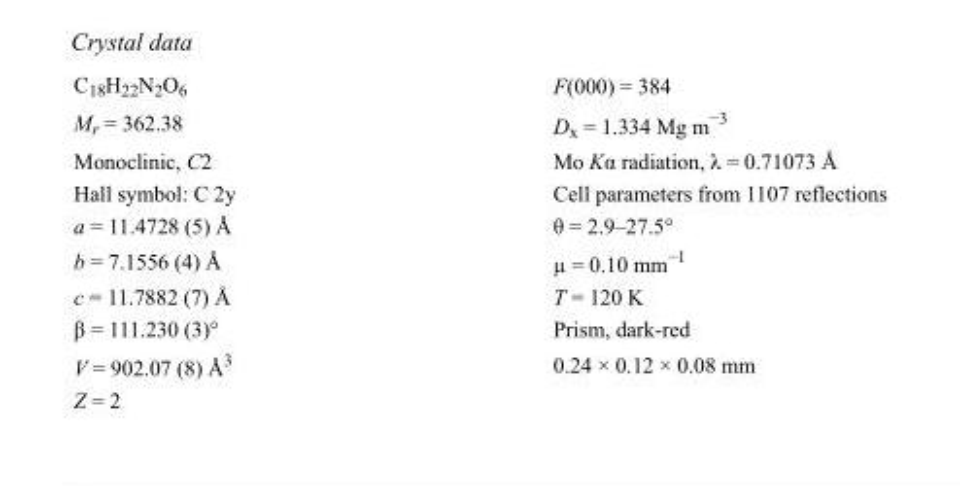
<table><tbody><tr><td>C<sub>18</sub>H<sub>22</sub>N<sub>2</sub>O<sub>6</sub></td><td>F(000) = 384</td></tr><tr><td>M<sub>r</sub> = 362.38</td><td>D<sub>x</sub> = 1.334 Mg m<sup>−3</sup></td></tr><tr><td>Monoclinic, C2</td><td>Mo Kα radiation, λ = 0.71073 Å</td></tr><tr><td>Hall symbol: C 2y</td><td>Cell parameters from 1107 reflections</td></tr><tr><td>a = 11.4728 (5) Å</td><td>θ = 2.9–27.5°</td></tr><tr><td>b = 7.1556 (4) Å</td><td>µ = 0.10 mm<sup>−1</sup></td></tr><tr><td>c = 11.7882 (7) Å</td><td>T = 120 K</td></tr><tr><td>β = 111.230 (3)°</td><td>Prism, dark-red</td></tr><tr><td>V = 902.07 (8) Å<sup>3</sup></td><td>0.24 × 0.12 × 0.08 mm</td></tr><tr><td>Z = 2</td><td></td></tr></tbody></table>